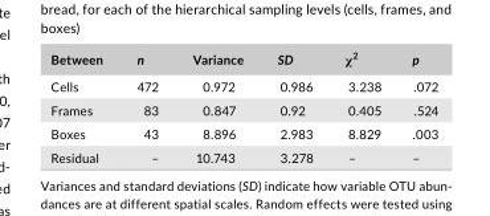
<table><thead><tr><td>Between</td><td>n</td><td>Variance</td><td>SD</td><td>χ<sup>2</sup></td><td>p</td></tr></thead><tbody><tr><td>Cells</td><td>472</td><td>0.972</td><td>0.986</td><td>3.238</td><td>.072</td></tr><tr><td>Frames</td><td>83</td><td>0.847</td><td>0.92</td><td>0.405</td><td>.524</td></tr><tr><td>Boxes</td><td>43</td><td>8.896</td><td>2.983</td><td>8.829</td><td>.003</td></tr><tr><td>Residual</td><td>–</td><td>10.743</td><td>3.278</td><td>–</td><td>–</td></tr></tbody></table>